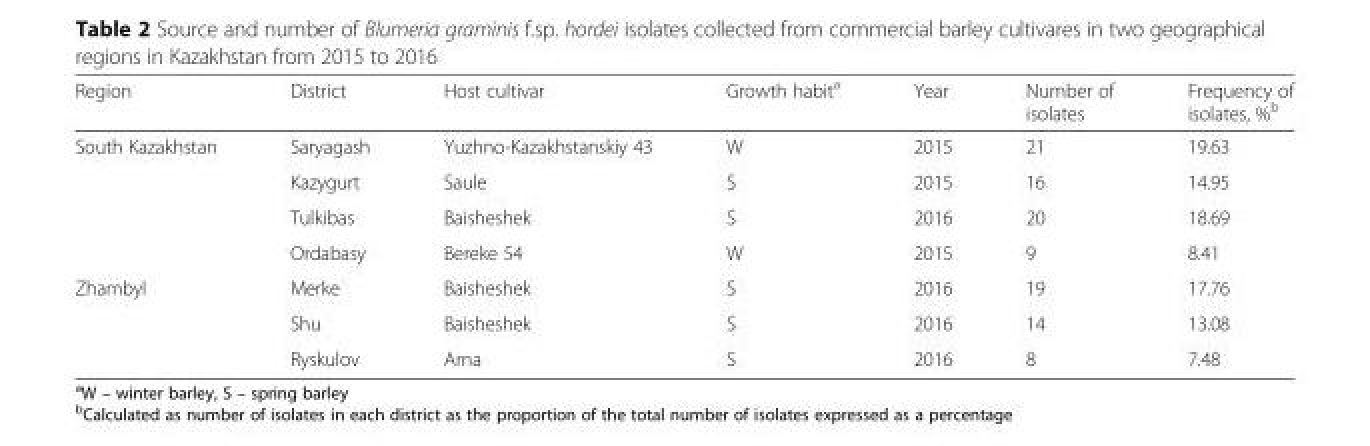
<table><thead><tr><td>Region</td><td>District</td><td>Host cultivar</td><td>Growth habit<sup>a</sup></td><td>Year</td><td>Number of isolates</td><td>Frequency of isolates, %<sup>b</sup></td></tr></thead><tbody><tr><td rowspan="4">South Kazakhstan</td><td>Saryagash</td><td>Yuzhno-Kazakhstanskiy 43</td><td>W</td><td>2015</td><td>21</td><td>19.63</td></tr><tr><td>Kazygurt</td><td>Saule</td><td>S</td><td>2015</td><td>16</td><td>14.95</td></tr><tr><td>Tulkibas</td><td>Baisheshek</td><td>S</td><td>2016</td><td>20</td><td>18.69</td></tr><tr><td>Ordabasy</td><td>Bereke 54</td><td>W</td><td>2015</td><td>9</td><td>8.41</td></tr><tr><td rowspan="3">Zhambyl</td><td>Merke</td><td>Baisheshek</td><td>S</td><td>2016</td><td>19</td><td>17.76</td></tr><tr><td>Shu</td><td>Baisheshek</td><td>S</td><td>2016</td><td>14</td><td>13.08</td></tr><tr><td>Ryskulov</td><td>Arna</td><td>S</td><td>2016</td><td>8</td><td>7.48</td></tr></tbody></table>